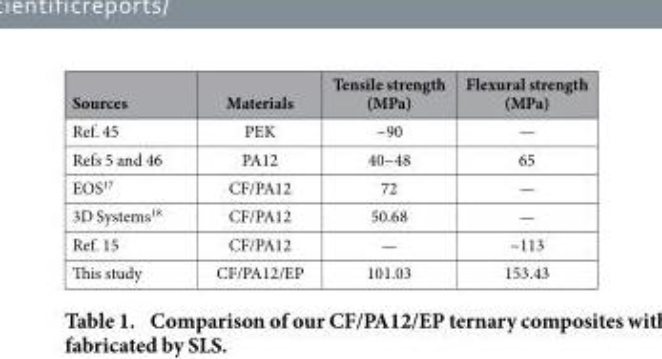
<table><thead><tr><td>Sources</td><td>Materials</td><td>Tensile strength (MPa)</td><td>Flexural strength (MPa)</td></tr></thead><tbody><tr><td>Ref. 45</td><td>PEK</td><td>~90</td><td>—</td></tr><tr><td>Refs 5 and 46</td><td>PA12</td><td>40~48</td><td>65</td></tr><tr><td>EOS<sup>17</sup></td><td>CF/PA12</td><td>72</td><td>—</td></tr><tr><td>3D Systems<sup>18</sup></td><td>CF/PA12</td><td>50.68</td><td>—</td></tr><tr><td>Ref. 15</td><td>CF/PA12</td><td>—</td><td>~113</td></tr><tr><td>This study</td><td>CF/PA12/EP</td><td>101.03</td><td>153.43</td></tr></tbody></table>